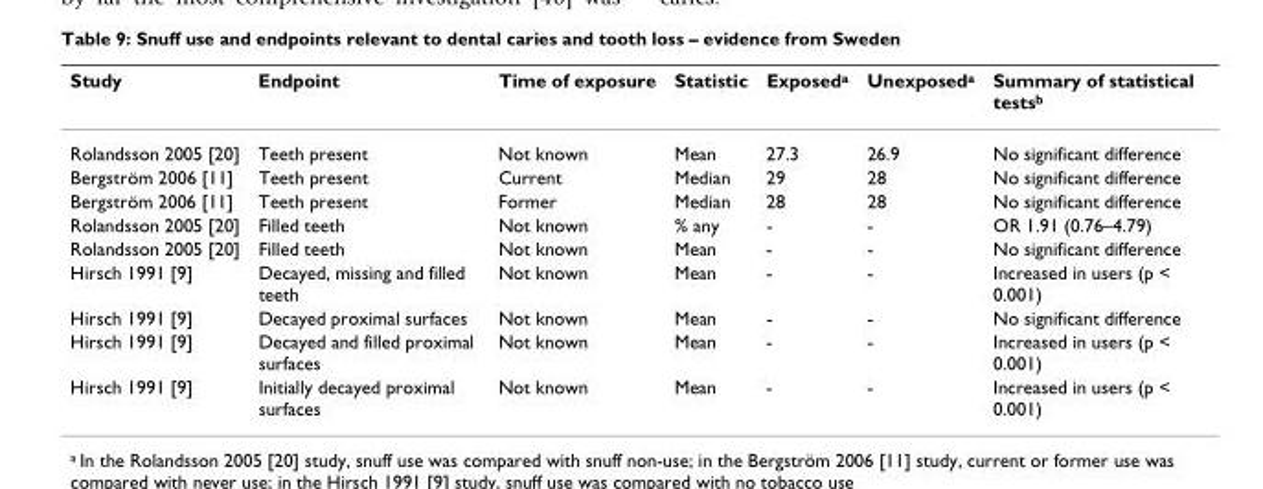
<table><thead><tr><td>Study</td><td>Endpoint</td><td>Time of exposure</td><td>Statistic</td><td>Exposed<sup>a</sup></td><td>Unexposed<sup>a</sup></td><td>Summary of statistical tests<sup>b</sup></td></tr></thead><tbody><tr><td>Rolandsson 2005 [20]</td><td>Teeth present</td><td>Not known</td><td>Mean</td><td>27.3</td><td>26.9</td><td>No significant difference</td></tr><tr><td>Bergström 2006 [11]</td><td>Teeth present</td><td>Current</td><td>Median</td><td>29</td><td>28</td><td>No significant difference</td></tr><tr><td>Bergström 2006 [11]</td><td>Teeth present</td><td>Former</td><td>Median</td><td>28</td><td>28</td><td>No significant difference</td></tr><tr><td>Rolandsson 2005 [20]</td><td>Filled teeth</td><td>Not known</td><td>% any</td><td>-</td><td>-</td><td>OR 1.91 (0.76–4.79)</td></tr><tr><td>Rolandsson 2005 [20]</td><td>Filled teeth</td><td>Not known</td><td>Mean</td><td>-</td><td>-</td><td>No significant difference</td></tr><tr><td>Hirsch 1991 [9]</td><td>Decayed, missing and filled teeth</td><td>Not known</td><td>Mean</td><td>-</td><td>-</td><td>Increased in users (p &lt; 0.001)</td></tr><tr><td>Hirsch 1991 [9]</td><td>Decayed proximal surfaces</td><td>Not known</td><td>Mean</td><td>-</td><td>-</td><td>No significant difference</td></tr><tr><td>Hirsch 1991 [9]</td><td>Decayed and filled proximal surfaces</td><td>Not known</td><td>Mean</td><td>-</td><td>-</td><td>Increased in users (p &lt; 0.001)</td></tr><tr><td>Hirsch 1991 [9]</td><td>Initially decayed proximal surfaces</td><td>Not known</td><td>Mean</td><td>-</td><td>-</td><td>Increased in users (p &lt; 0.001)</td></tr></tbody></table>